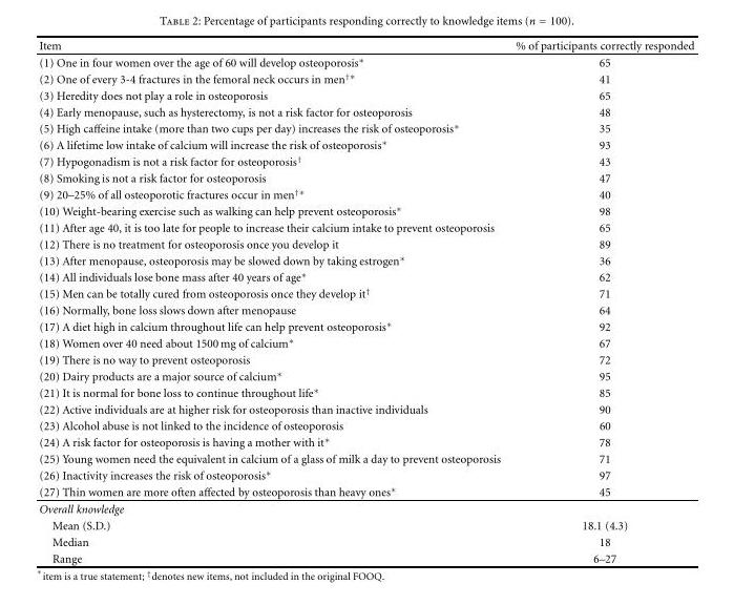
<table><thead><tr><td>Item</td><td>% of participants correctly responded</td></tr></thead><tbody><tr><td>(1) One in four women over the age of 60 will develop osteoporosis∗</td><td>65</td></tr><tr><td>(2) One of every 3-4 fractures in the femoral neck occurs in men<sup>†∗</sup></td><td>41</td></tr><tr><td>(3) Heredity does not play a role in osteoporosis</td><td>65</td></tr><tr><td>(4) Early menopause, such as hysterectomy, is not a risk factor for osteoporosis</td><td>48</td></tr><tr><td>(5) High caffeine intake (more than two cups per day) increases the risk of osteoporosis∗</td><td>35</td></tr><tr><td>(6) A lifetime low intake of calcium will increase the risk of osteoporosis∗</td><td>93</td></tr><tr><td>(7) Hypogonadism is not a risk factor for osteoporosis<sup>†</sup></td><td>43</td></tr><tr><td>(8) Smoking is not a risk factor for osteoporosis</td><td>47</td></tr><tr><td>(9) 20–25% of all osteoporotic fractures occur in men<sup>†∗</sup></td><td>40</td></tr><tr><td>(10) Weight-bearing exercise such as walking can help prevent osteoporosis∗</td><td>98</td></tr><tr><td>(11) After age 40, it is too late for people to increase their calcium intake to prevent osteoporosis</td><td>65</td></tr><tr><td>(12) There is no treatment for osteoporosis once you develop it</td><td>89</td></tr><tr><td>(13) After menopause, osteoporosis may be slowed down by taking estrogen∗</td><td>36</td></tr><tr><td>(14) All individuals lose bone mass after 40 years of age∗</td><td>62</td></tr><tr><td>(15) Men can be totally cured from osteoporosis once they develop it<sup>†</sup></td><td>71</td></tr><tr><td>(16) Normally, bone loss slows down after menopause</td><td>64</td></tr><tr><td>(17) A diet high in calcium throughout life can help prevent osteoporosis∗</td><td>92</td></tr><tr><td>(18) Women over 40 need about 1500 mg of calcium∗</td><td>67</td></tr><tr><td>(19) There is no way to prevent osteoporosis</td><td>72</td></tr><tr><td>(20) Dairy products are a major source of calcium∗</td><td>95</td></tr><tr><td>(21) It is normal for bone loss to continue throughout life∗</td><td>85</td></tr><tr><td>(22) Active individuals are at higher risk for osteoporosis than inactive individuals</td><td>90</td></tr><tr><td>(23) Alcohol abuse is not linked to the incidence of osteoporosis</td><td>60</td></tr><tr><td>(24) A risk factor for osteoporosis is having a mother with it∗</td><td>78</td></tr><tr><td>(25) Young women need the equivalent in calcium of a glass of milk a day to prevent osteoporosis</td><td>71</td></tr><tr><td>(26) Inactivity increases the risk of osteoporosis∗</td><td>97</td></tr><tr><td>(27) Thin women are more often affected by osteoporosis than heavy ones∗</td><td>45</td></tr><tr><td colspan="2">Overall knowledge</td></tr><tr><td>Mean (S.D.)</td><td>18.1 (4.3)</td></tr><tr><td>Median</td><td>18</td></tr><tr><td>Range</td><td>6–27</td></tr></tbody></table>